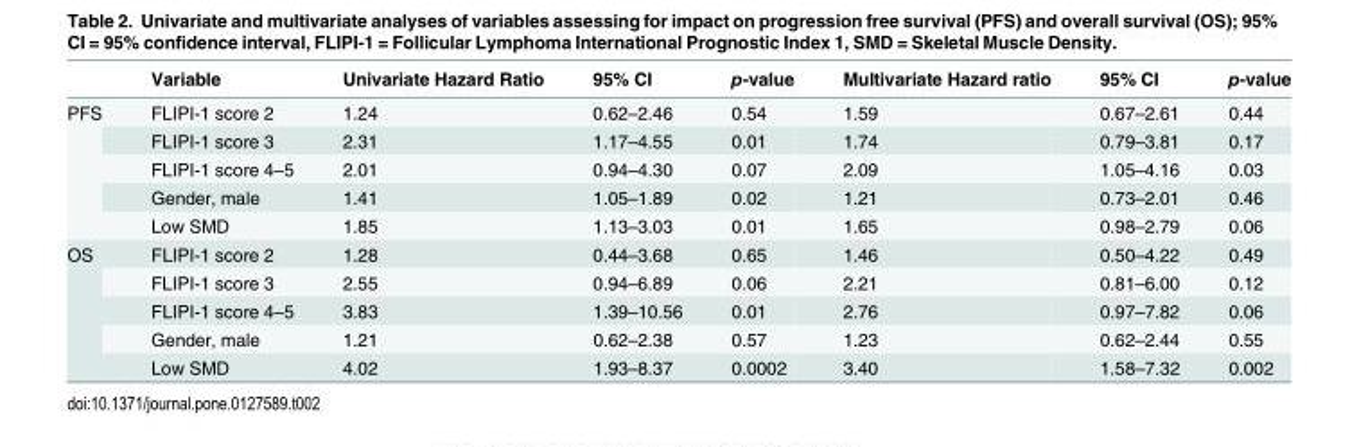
<table><thead><tr><td></td><td>Variable</td><td>Univariate Hazard Ratio</td><td>95% CI</td><td>p-value</td><td>Multivariate Hazard ratio</td><td>95% CI</td><td>p-value</td></tr></thead><tbody><tr><td rowspan="5">PFS</td><td>FLIPI-1 score 2</td><td>1.24</td><td>0.62–2.46</td><td>0.54</td><td>1.59</td><td>0.67–2.61</td><td>0.44</td></tr><tr><td>FLIPI-1 score 3</td><td>2.31</td><td>1.17–4.55</td><td>0.01</td><td>1.74</td><td>0.79–3.81</td><td>0.17</td></tr><tr><td>FLIPI-1 score 4–5</td><td>2.01</td><td>0.94–4.30</td><td>0.07</td><td>2.09</td><td>1.05–4.16</td><td>0.03</td></tr><tr><td>Gender, male</td><td>1.41</td><td>1.05–1.89</td><td>0.02</td><td>1.21</td><td>0.73–2.01</td><td>0.46</td></tr><tr><td>Low SMD</td><td>1.85</td><td>1.13–3.03</td><td>0.01</td><td>1.65</td><td>0.98–2.79</td><td>0.06</td></tr><tr><td rowspan="5">OS</td><td>FLIPI-1 score 2</td><td>1.28</td><td>0.44–3.68</td><td>0.65</td><td>1.46</td><td>0.50–4.22</td><td>0.49</td></tr><tr><td>FLIPI-1 score 3</td><td>2.55</td><td>0.94–6.89</td><td>0.06</td><td>2.21</td><td>0.81–6.00</td><td>0.12</td></tr><tr><td>FLIPI-1 score 4–5</td><td>3.83</td><td>1.39–10.56</td><td>0.01</td><td>2.76</td><td>0.97–7.82</td><td>0.06</td></tr><tr><td>Gender, male</td><td>1.21</td><td>0.62–2.38</td><td>0.57</td><td>1.23</td><td>0.62–2.44</td><td>0.55</td></tr><tr><td>Low SMD</td><td>4.02</td><td>1.93–8.37</td><td>0.0002</td><td>3.40</td><td>1.58–7.32</td><td>0.002</td></tr></tbody></table>